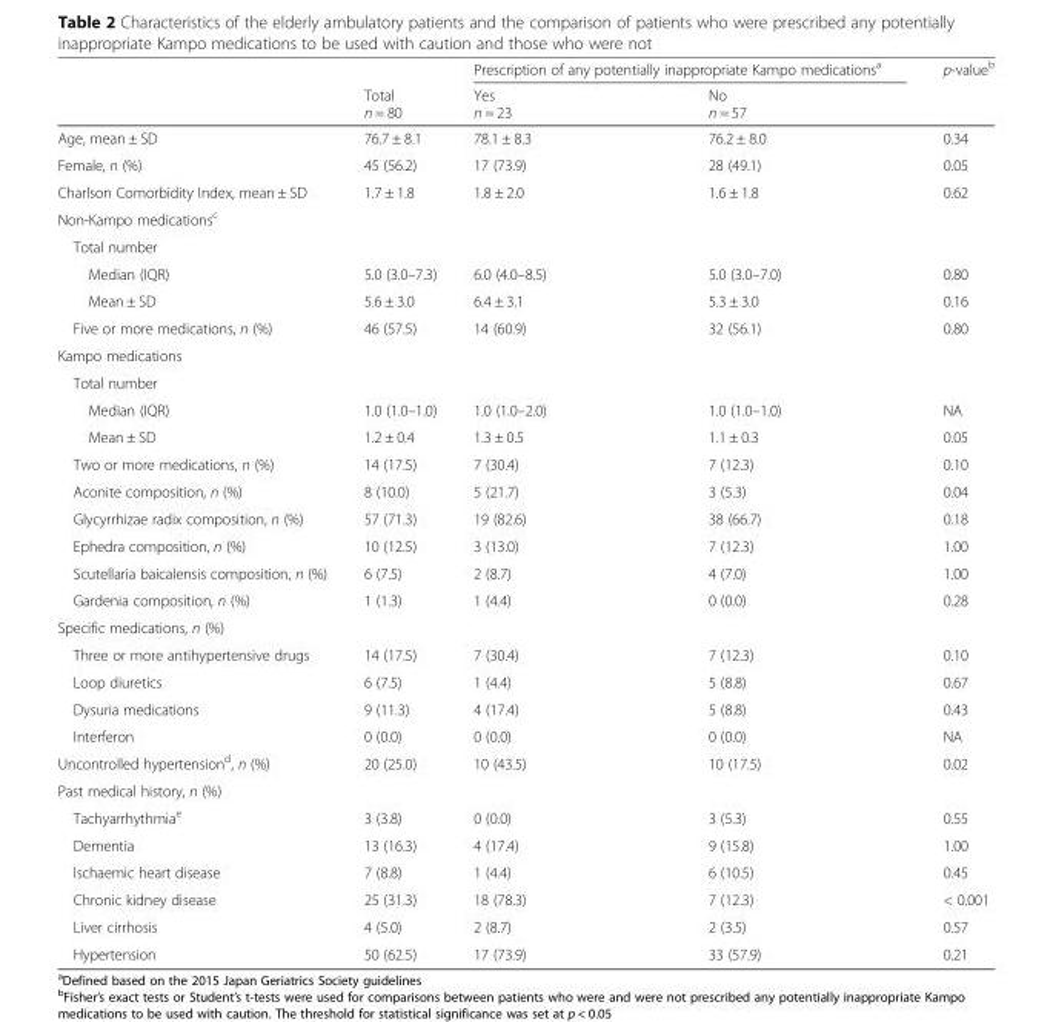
<table><thead><tr><td rowspan="2"></td><td rowspan="2">Total n = 80</td><td colspan="2">Prescription of any potentially inappropriate Kampo medications<sup>a</sup></td><td rowspan="2">p-value<sup>b</sup></td></tr><tr><td>Yes n = 23</td><td>No n = 57</td></tr></thead><tbody><tr><td>Age, mean ± SD</td><td>76.7 ± 8.1</td><td>78.1 ± 8.3</td><td>76.2 ± 8.0</td><td>0.34</td></tr><tr><td>Female, n (%)</td><td>45 (56.2)</td><td>17 (73.9)</td><td>28 (49.1)</td><td>0.05</td></tr><tr><td>Charlson Comorbidity Index, mean ± SD</td><td>1.7 ± 1.8</td><td>1.8 ± 2.0</td><td>1.6 ± 1.8</td><td>0.62</td></tr><tr><td colspan="5">Non-Kampo medications<sup>c</sup></td></tr><tr><td colspan="5">Total number</td></tr><tr><td>Median (IQR)</td><td>5.0 (3.0–7.3)</td><td>6.0 (4.0–8.5)</td><td>5.0 (3.0–7.0)</td><td>0.80</td></tr><tr><td>Mean ± SD</td><td>5.6 ± 3.0</td><td>6.4 ± 3.1</td><td>5.3 ± 3.0</td><td>0.16</td></tr><tr><td>Five or more medications, n (%)</td><td>46 (57.5)</td><td>14 (60.9)</td><td>32 (56.1)</td><td>0.80</td></tr><tr><td colspan="5">Kampo medications</td></tr><tr><td colspan="5">Total number</td></tr><tr><td>Median (IQR)</td><td>1.0 (1.0–1.0)</td><td>1.0 (1.0–2.0)</td><td>1.0 (1.0–1.0)</td><td>NA</td></tr><tr><td>Mean ± SD</td><td>1.2 ± 0.4</td><td>1.3 ± 0.5</td><td>1.1 ± 0.3</td><td>0.05</td></tr><tr><td>Two or more medications, n (%)</td><td>14 (17.5)</td><td>7 (30.4)</td><td>7 (12.3)</td><td>0.10</td></tr><tr><td>Aconite composition, n (%)</td><td>8 (10.0)</td><td>5 (21.7)</td><td>3 (5.3)</td><td>0.04</td></tr><tr><td>Glycyrrhizae radix composition, n (%)</td><td>57 (71.3)</td><td>19 (82.6)</td><td>38 (66.7)</td><td>0.18</td></tr><tr><td>Ephedra composition, n (%)</td><td>10 (12.5)</td><td>3 (13.0)</td><td>7 (12.3)</td><td>1.00</td></tr><tr><td>Scutellaria baicalensis composition, n (%)</td><td>6 (7.5)</td><td>2 (8.7)</td><td>4 (7.0)</td><td>1.00</td></tr><tr><td>Gardenia composition, n (%)</td><td>1 (1.3)</td><td>1 (4.4)</td><td>0 (0.0)</td><td>0.28</td></tr><tr><td colspan="5">Specific medications, n (%)</td></tr><tr><td>Three or more antihypertensive drugs</td><td>14 (17.5)</td><td>7 (30.4)</td><td>7 (12.3)</td><td>0.10</td></tr><tr><td>Loop diuretics</td><td>6 (7.5)</td><td>1 (4.4)</td><td>5 (8.8)</td><td>0.67</td></tr><tr><td>Dysuria medications</td><td>9 (11.3)</td><td>4 (17.4)</td><td>5 (8.8)</td><td>0.43</td></tr><tr><td>Interferon</td><td>0 (0.0)</td><td>0 (0.0)</td><td>0 (0.0)</td><td>NA</td></tr><tr><td>Uncontrolled hypertension<sup>d</sup>, n (%)</td><td>20 (25.0)</td><td>10 (43.5)</td><td>10 (17.5)</td><td>0.02</td></tr><tr><td colspan="5">Past medical history, n (%)</td></tr><tr><td>Tachyarrhythmia<sup>e</sup></td><td>3 (3.8)</td><td>0 (0.0)</td><td>3 (5.3)</td><td>0.55</td></tr><tr><td>Dementia</td><td>13 (16.3)</td><td>4 (17.4)</td><td>9 (15.8)</td><td>1.00</td></tr><tr><td>Ischaemic heart disease</td><td>7 (8.8)</td><td>1 (4.4)</td><td>6 (10.5)</td><td>0.45</td></tr><tr><td>Chronic kidney disease</td><td>25 (31.3)</td><td>18 (78.3)</td><td>7 (12.3)</td><td>&lt; 0.001</td></tr><tr><td>Liver cirrhosis</td><td>4 (5.0)</td><td>2 (8.7)</td><td>2 (3.5)</td><td>0.57</td></tr><tr><td>Hypertension</td><td>50 (62.5)</td><td>17 (73.9)</td><td>33 (57.9)</td><td>0.21</td></tr></tbody></table>